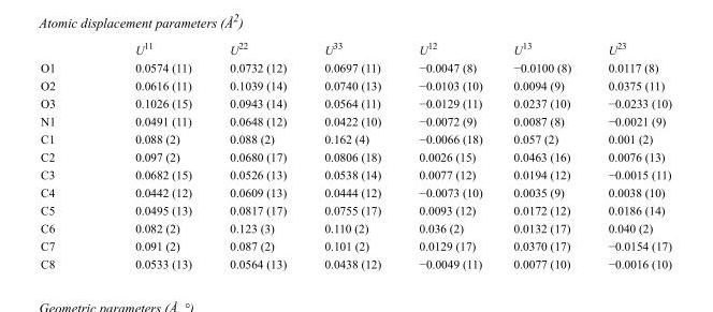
<table><thead><tr><td></td><td>U<sup>11</sup></td><td>U<sup>22</sup></td><td>U<sup>33</sup></td><td>U<sup>12</sup></td><td>U<sup>13</sup></td><td>U<sup>23</sup></td></tr></thead><tbody><tr><td>O1</td><td>0.0574 (11)</td><td>0.0732 (12)</td><td>0.0697 (11)</td><td>−0.0047 (8)</td><td>−0.0100 (8)</td><td>0.0117 (8)</td></tr><tr><td>O2</td><td>0.0616 (11)</td><td>0.1039 (14)</td><td>0.0740 (13)</td><td>−0.0103 (10)</td><td>0.0094 (9)</td><td>0.0375 (11)</td></tr><tr><td>O3</td><td>0.1026 (15)</td><td>0.0943 (14)</td><td>0.0564 (11)</td><td>−0.0129 (11)</td><td>0.0237 (10)</td><td>−0.0233 (10)</td></tr><tr><td>N1</td><td>0.0491 (11)</td><td>0.0648 (12)</td><td>0.0422 (10)</td><td>−0.0072 (9)</td><td>0.0087 (8)</td><td>−0.0021 (9)</td></tr><tr><td>C1</td><td>0.088 (2)</td><td>0.088 (2)</td><td>0.162 (4)</td><td>−0.0066 (18)</td><td>0.057 (2)</td><td>0.001 (2)</td></tr><tr><td>C2</td><td>0.097 (2)</td><td>0.0680 (17)</td><td>0.0806 (18)</td><td>0.0026 (15)</td><td>0.0463 (16)</td><td>0.0076 (13)</td></tr><tr><td>C3</td><td>0.0682 (15)</td><td>0.0526 (13)</td><td>0.0538 (14)</td><td>0.0077 (12)</td><td>0.0194 (12)</td><td>−0.0015 (11)</td></tr><tr><td>C4</td><td>0.0442 (12)</td><td>0.0609 (13)</td><td>0.0444 (12)</td><td>−0.0073 (10)</td><td>0.0035 (9)</td><td>0.0038 (10)</td></tr><tr><td>C5</td><td>0.0495 (13)</td><td>0.0817 (17)</td><td>0.0755 (17)</td><td>0.0093 (12)</td><td>0.0172 (12)</td><td>0.0186 (14)</td></tr><tr><td>C6</td><td>0.082 (2)</td><td>0.123 (3)</td><td>0.110 (2)</td><td>0.036 (2)</td><td>0.0132 (17)</td><td>0.040 (2)</td></tr><tr><td>C7</td><td>0.091 (2)</td><td>0.087 (2)</td><td>0.101 (2)</td><td>0.0129 (17)</td><td>0.0370 (17)</td><td>−0.0154 (17)</td></tr><tr><td>C8</td><td>0.0533 (13)</td><td>0.0564 (13)</td><td>0.0438 (12)</td><td>−0.0049 (11)</td><td>0.0077 (10)</td><td>−0.0016 (10)</td></tr></tbody></table>